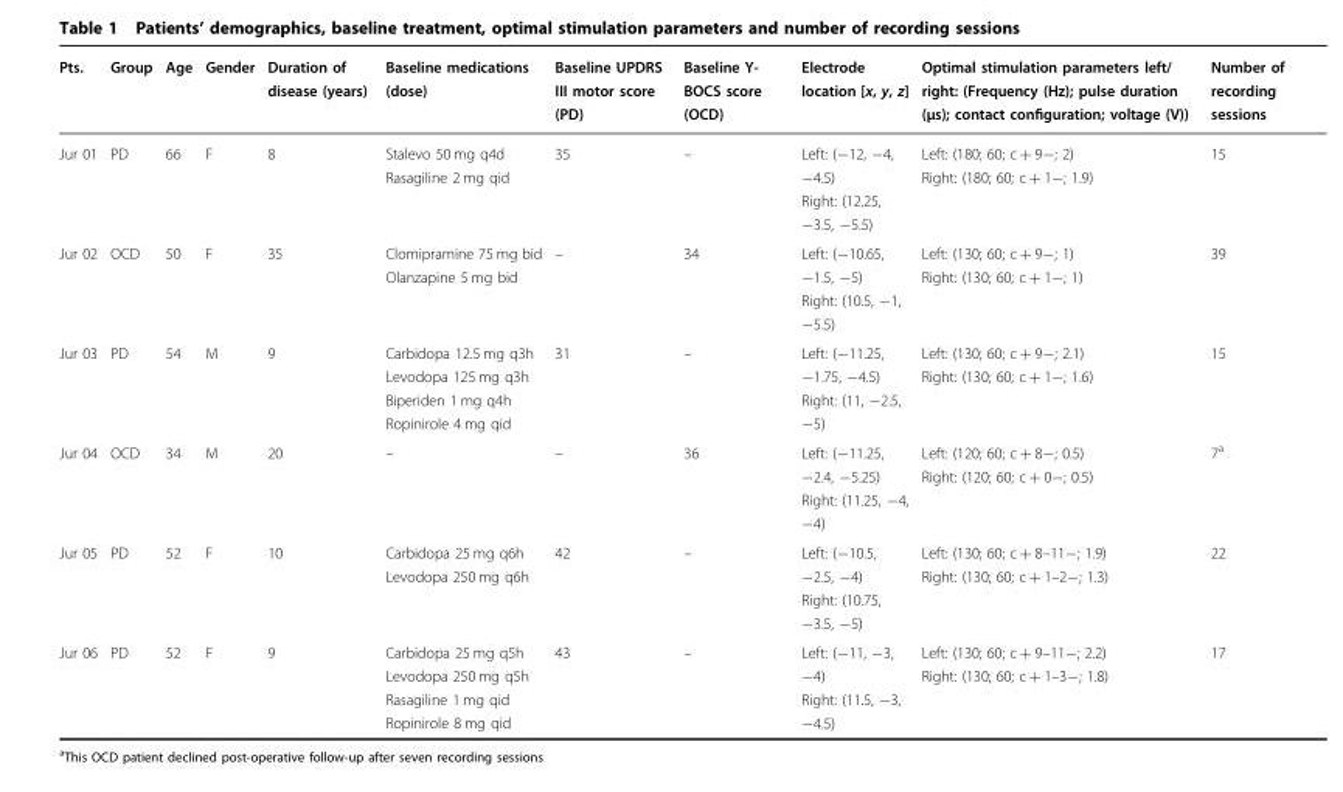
<table><thead><tr><td>Pts.</td><td>Group</td><td>Age</td><td>Gender</td><td>Duration of disease (years)</td><td>Baseline medications (dose)</td><td>Baseline UPDRS III motor score (PD)</td><td>Baseline Y- BOCS score (OCD)</td><td>Electrode location [x, y, z]</td><td>Optimal stimulation parameters left/ right: (Frequency (Hz); pulse duration (μs); contact configuration; voltage (V))</td><td>Number of recording sessions</td></tr></thead><tbody><tr><td>Jur 01</td><td>PD</td><td>66</td><td>F</td><td>8</td><td>Stalevo 50 mg q4d Rasagiline 2 mg qid</td><td>35</td><td>–</td><td>Left: (−12, −4, −4.5) Right: (12.25, −3.5, −5.5)</td><td>Left: (180; 60; c + 9−; 2) Right: (180; 60; c + 1−; 1.9)</td><td>15</td></tr><tr><td>Jur 02</td><td>OCD</td><td>50</td><td>F</td><td>35</td><td>Clomipramine 75 mg bid Olanzapine 5 mg bid</td><td>–</td><td>34</td><td>Left: (−10.65, −1.5, −5) Right: (10.5, −1, −5.5)</td><td>Left: (130; 60; c + 9−; 1) Right: (130; 60; c + 1−; 1)</td><td>39</td></tr><tr><td>Jur 03</td><td>PD</td><td>54</td><td>M</td><td>9</td><td>Carbidopa 12.5 mg q3h Levodopa 125 mg q3h Biperiden 1 mg q4h Ropinirole 4 mg qid</td><td>31</td><td>–</td><td>Left: (−11.25, −1.75, −4.5) Right: (11, −2.5, −5)</td><td>Left: (130; 60; c + 9−; 2.1) Right: (130; 60; c + 1−; 1.6)</td><td>15</td></tr><tr><td>Jur 04</td><td>OCD</td><td>34</td><td>M</td><td>20</td><td>–</td><td>–</td><td>36</td><td>Left: (−11.25, −2.4, −5.25) Right: (11.25, −4, −4)</td><td>Left: (120; 60; c + 8−; 0.5) Right: (120; 60; c + 0−; 0.5)</td><td>7<sup>a</sup></td></tr><tr><td>Jur 05</td><td>PD</td><td>52</td><td>F</td><td>10</td><td>Carbidopa 25 mg q6h Levodopa 250 mg q6h</td><td>42</td><td>–</td><td>Left: (−10.5, −2.5, −4) Right: (10.75, −3.5, −5)</td><td>Left: (130; 60; c + 8–11−; 1.9) Right: (130; 60; c + 1–2−; 1.3)</td><td>22</td></tr><tr><td>Jur 06</td><td>PD</td><td>52</td><td>F</td><td>9</td><td>Carbidopa 25 mg q5h Levodopa 250 mg q5h Rasagiline 1 mg qid Ropinirole 8 mg qid</td><td>43</td><td>–</td><td>Left: (−11, −3, −4) Right: (11.5, −3, −4.5)</td><td>Left: (130; 60; c + 9–11−; 2.2) Right: (130; 60; c + 1–3−; 1.8)</td><td>17</td></tr></tbody></table>